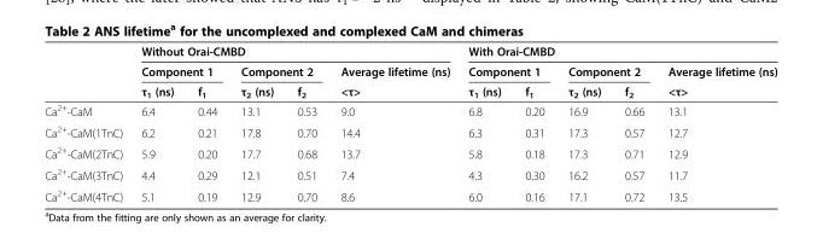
<table><thead><tr><td rowspan="3"></td><td colspan="5">Without Orai-CMBD</td><td colspan="5">With Orai-CMBD</td></tr><tr><td colspan="2">Component 1</td><td colspan="2">Component 2</td><td rowspan="2">Average lifetime (ns) &lt;τ&gt;</td><td colspan="2">Component 1</td><td colspan="2">Component 2</td><td rowspan="2">Average lifetime (ns) &lt;τ&gt;</td></tr><tr><td>τ<sub>1</sub> (ns)</td><td>f<sub>1</sub></td><td>τ<sub>2</sub> (ns)</td><td>f<sub>2</sub></td><td>τ<sub>1</sub> (ns)</td><td>f<sub>1</sub></td><td>τ<sub>2</sub> (ns)</td><td>f<sub>2</sub></td></tr></thead><tbody><tr><td>Ca<sup>2+</sup>-CaM</td><td>6.4</td><td>0.44</td><td>13.1</td><td>0.53</td><td>9.0</td><td>6.8</td><td>0.20</td><td>16.9</td><td>0.66</td><td>13.1</td></tr><tr><td>Ca<sup>2+</sup>-CaM(1TnC)</td><td>6.2</td><td>0.21</td><td>17.8</td><td>0.70</td><td>14.4</td><td>6.3</td><td>0.31</td><td>17.3</td><td>0.57</td><td>12.7</td></tr><tr><td>Ca<sup>2+</sup>-CaM(2TnC)</td><td>5.9</td><td>0.20</td><td>17.7</td><td>0.68</td><td>13.7</td><td>5.8</td><td>0.18</td><td>17.3</td><td>0.71</td><td>12.9</td></tr><tr><td>Ca<sup>2+</sup>-CaM(3TnC)</td><td>4.4</td><td>0.29</td><td>12.1</td><td>0.51</td><td>7.4</td><td>4.3</td><td>0.30</td><td>16.2</td><td>0.57</td><td>11.7</td></tr><tr><td>Ca<sup>2+</sup>-CaM(4TnC)</td><td>5.1</td><td>0.19</td><td>12.9</td><td>0.70</td><td>8.6</td><td>6.0</td><td>0.16</td><td>17.1</td><td>0.72</td><td>13.5</td></tr></tbody></table>